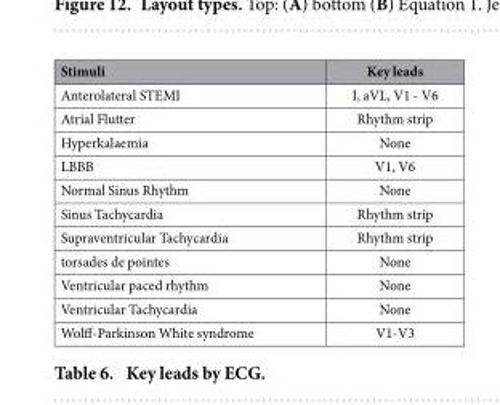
<table><thead><tr><td>Stimuli</td><td>Key leads</td></tr></thead><tbody><tr><td>Anterolateral STEMI</td><td>I, aVL, V1 - V6</td></tr><tr><td>Atrial Flutter</td><td>Rhythm strip</td></tr><tr><td>Hyperkalaemia</td><td>None</td></tr><tr><td>LBBB</td><td>V1, V6</td></tr><tr><td>Normal Sinus Rhythm</td><td>None</td></tr><tr><td>Sinus Tachycardia</td><td>Rhythm strip</td></tr><tr><td>Supraventricular Tachycardia</td><td>Rhythm strip</td></tr><tr><td>torsades de pointes</td><td>None</td></tr><tr><td>Ventricular paced rhythm</td><td>None</td></tr><tr><td>Ventricular Tachycardia</td><td>None</td></tr><tr><td>Wolff-Parkinson White syndrome</td><td>V1-V3</td></tr></tbody></table>